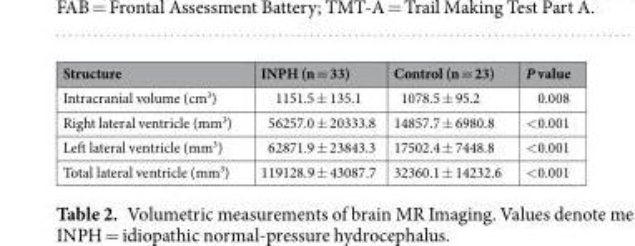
<table><thead><tr><td>Structure</td><td>INPH (n = 33)</td><td>Control (n = 23)</td><td>P value</td></tr></thead><tbody><tr><td>Intracranial volume (cm<sup>3</sup>)</td><td>1151.5 ± 135.1</td><td>1078.5 ± 95.2</td><td>0.008</td></tr><tr><td>Right lateral ventricle (mm<sup>3</sup>)</td><td>56257.0 ± 20333.8</td><td>14857.7 ± 6980.8</td><td>&lt;0.001</td></tr><tr><td>Left lateral ventricle (mm<sup>3</sup>)</td><td>62871.9 ± 23843.3</td><td>17502.4 ± 7448.8</td><td>&lt;0.001</td></tr><tr><td>Total lateral ventricle (mm<sup>3</sup>)</td><td>119128.9 ± 43087.7</td><td>32360.1 ± 14232.6</td><td>&lt;0.001</td></tr></tbody></table>